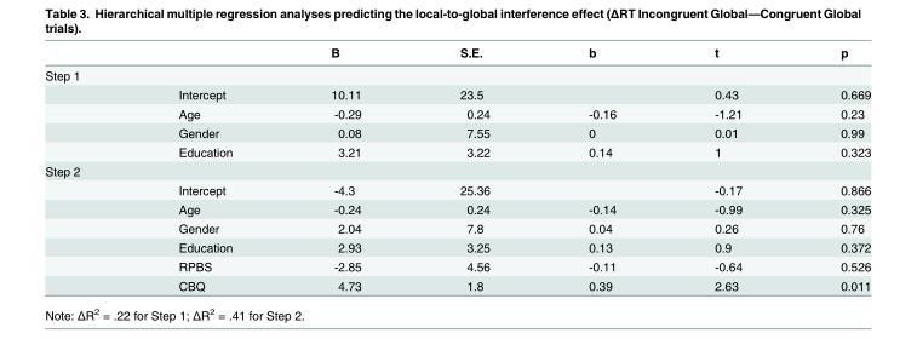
<table><thead><tr><td></td><td></td><td>B</td><td>S.E.</td><td>b</td><td>t</td><td>p</td></tr></thead><tbody><tr><td colspan="7">Step 1</td></tr><tr><td></td><td>Intercept</td><td>10.11</td><td>23.5</td><td></td><td>0.43</td><td>0.669</td></tr><tr><td></td><td>Age</td><td>-0.29</td><td>0.24</td><td>-0.16</td><td>-1.21</td><td>0.23</td></tr><tr><td></td><td>Gender</td><td>0.08</td><td>7.55</td><td>0</td><td>0.01</td><td>0.99</td></tr><tr><td></td><td>Education</td><td>3.21</td><td>3.22</td><td>0.14</td><td>1</td><td>0.323</td></tr><tr><td colspan="7">Step 2</td></tr><tr><td></td><td>Intercept</td><td>-4.3</td><td>25.36</td><td></td><td>-0.17</td><td>0.866</td></tr><tr><td></td><td>Age</td><td>-0.24</td><td>0.24</td><td>-0.14</td><td>-0.99</td><td>0.325</td></tr><tr><td></td><td>Gender</td><td>2.04</td><td>7.8</td><td>0.04</td><td>0.26</td><td>0.76</td></tr><tr><td></td><td>Education</td><td>2.93</td><td>3.25</td><td>0.13</td><td>0.9</td><td>0.372</td></tr><tr><td></td><td>RPBS</td><td>-2.85</td><td>4.56</td><td>-0.11</td><td>-0.64</td><td>0.526</td></tr><tr><td></td><td>CBQ</td><td>4.73</td><td>1.8</td><td>0.39</td><td>2.63</td><td>0.011</td></tr></tbody></table>